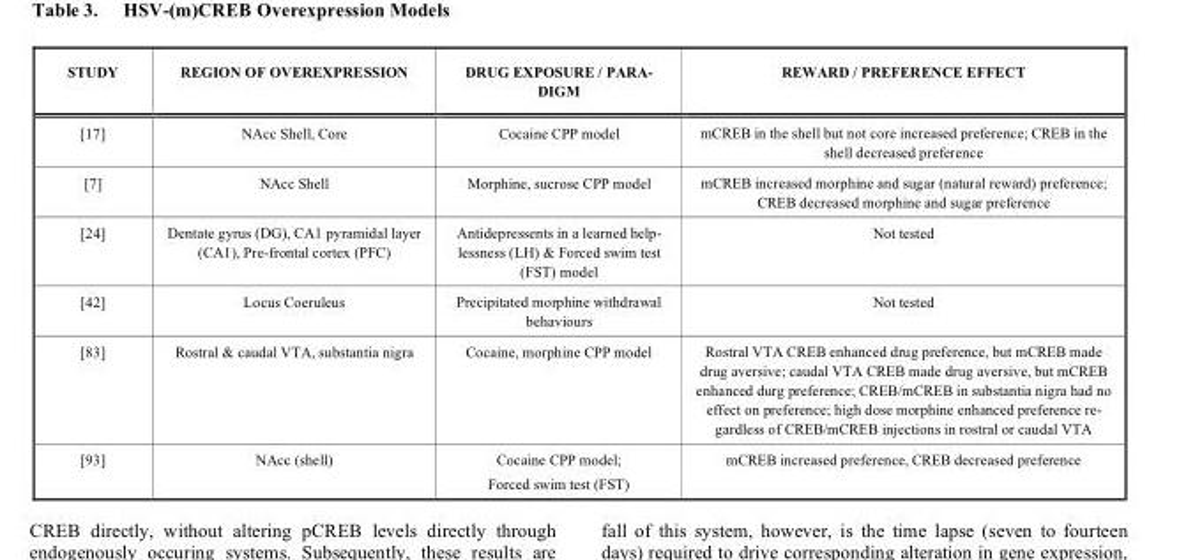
<table><thead><tr><td>STUDY</td><td>REGION OF OVEREXPRESSION</td><td>DRUG EXPOSURE / PARA- DIGM</td><td>REWARD / PREFERENCE EFFECT</td></tr></thead><tbody><tr><td>[17]</td><td>NAcc Shell, Core</td><td>Cocaine CPP model</td><td>mCREB in the shell but not core increased preference; CREB in the shell decreased preference</td></tr><tr><td>[7]</td><td>NAcc Shell</td><td>Morphine, sucrose CPP model</td><td>mCREB increased morphine and sugar (natural reward) preference; CREB decreased morphine and sugar preference</td></tr><tr><td>[24]</td><td>Dentate gyrus (DG), CA1 pyramidal layer (CA1), Pre-frontal cortex (PFC)</td><td>Antidepressents in a learned help- lessness (LH) &amp; Forced swim test (FST) model</td><td>Not tested</td></tr><tr><td>[42]</td><td>Locus Coeruleus</td><td>Precipitated morphine withdrawal behaviours</td><td>Not tested</td></tr><tr><td>[83]</td><td>Rostral &amp; caudal VTA, substantia nigra</td><td>Cocaine, morphine CPP model</td><td>Rostral VTA CREB enhanced drug preference, but mCREB made drug aversive; caudal VTA CREB made drug aversive, but mCREB enhanced durg preference; CREB/mCREB in substantia nigra had no effect on preference; high dose morphine enhanced preference re- gardless of CREB/mCREB injections in rostral or caudal VTA</td></tr><tr><td>[93]</td><td>NAcc (shell)</td><td>Cocaine CPP model; Forced swim test (FST)</td><td>mCREB increased preference, CREB decreased preference</td></tr></tbody></table>